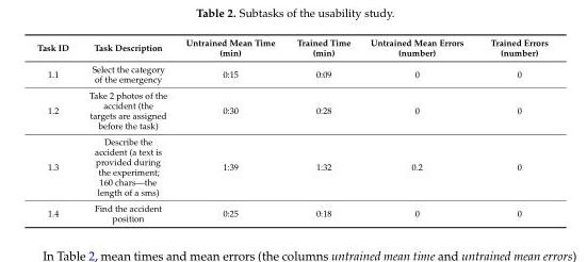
<table><thead><tr><td>Task ID</td><td>Task Description</td><td>Untrained Mean Time (min)</td><td>Trained Time (min)</td><td>Untrained Mean Errors (number)</td><td>Trained Errors (number)</td></tr></thead><tbody><tr><td>1.1</td><td>Select the category of the emergency</td><td>0:15</td><td>0:09</td><td>0</td><td>0</td></tr><tr><td>1.2</td><td>Take 2 photos of the accident (the targets are assigned before the task)</td><td>0:30</td><td>0:28</td><td>0</td><td>0</td></tr><tr><td>1.3</td><td>Describe the accident (a text is provided during the experiment; 160 chars—the length of a sms)</td><td>1:39</td><td>1:32</td><td>0.2</td><td>0</td></tr><tr><td>1.4</td><td>Find the accident position</td><td>0:25</td><td>0:18</td><td>0</td><td>0</td></tr></tbody></table>